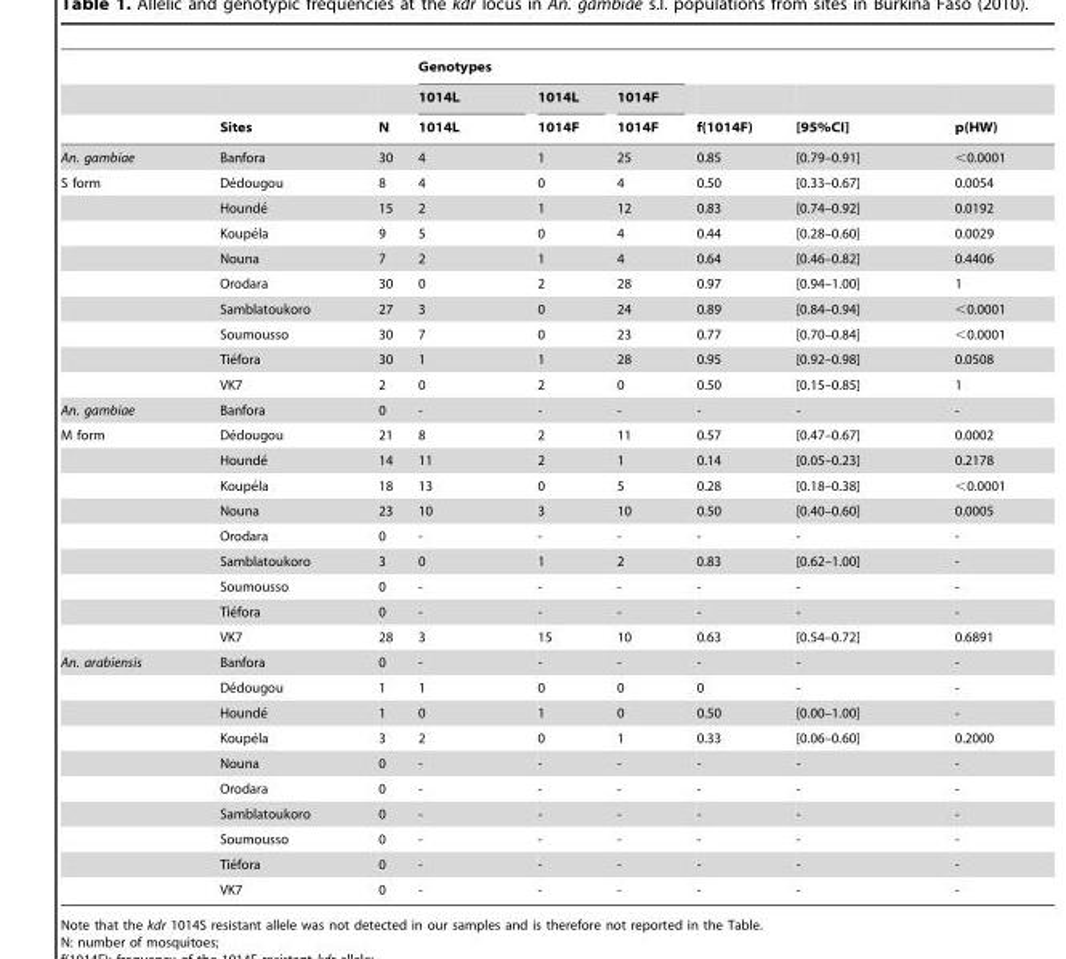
<table><thead><tr><td rowspan="3"></td><td rowspan="3">Sites</td><td rowspan="3">N</td><td colspan="3">Genotypes</td><td rowspan="3">f(1014F)</td><td rowspan="3">[95%CI]</td><td rowspan="3">p(HW)</td></tr><tr><td rowspan="2">1014L 1014L</td><td rowspan="2">1014L 1014F</td><td rowspan="2">1014F 1014F</td></tr><tr></tr></thead><tbody><tr><td>An. gambiae</td><td>Banfora</td><td>30</td><td>4</td><td>1</td><td>25</td><td>0.85</td><td>[0.79–0.91]</td><td>&lt;0.0001</td></tr><tr><td rowspan="9">S form</td><td>De´dougou</td><td>8</td><td>4</td><td>0</td><td>4</td><td>0.50</td><td>[0.33–0.67]</td><td>0.0054</td></tr><tr><td>Hounde´</td><td>15</td><td>2</td><td>1</td><td>12</td><td>0.83</td><td>[0.74–0.92]</td><td>0.0192</td></tr><tr><td>Koupe´la</td><td>9</td><td>5</td><td>0</td><td>4</td><td>0.44</td><td>[0.28–0.60]</td><td>0.0029</td></tr><tr><td>Nouna</td><td>7</td><td>2</td><td>1</td><td>4</td><td>0.64</td><td>[0.46–0.82]</td><td>0.4406</td></tr><tr><td>Orodara</td><td>30</td><td>0</td><td>2</td><td>28</td><td>0.97</td><td>[0.94–1.00]</td><td>1</td></tr><tr><td>Samblatoukoro</td><td>27</td><td>3</td><td>0</td><td>24</td><td>0.89</td><td>[0.84–0.94]</td><td>&lt;0.0001</td></tr><tr><td>Soumousso</td><td>30</td><td>7</td><td>0</td><td>23</td><td>0.77</td><td>[0.70–0.84]</td><td>&lt;0.0001</td></tr><tr><td>Tie´fora</td><td>30</td><td>1</td><td>1</td><td>28</td><td>0.95</td><td>[0.92–0.98]</td><td>0.0508</td></tr><tr><td>VK7</td><td>2</td><td>0</td><td>2</td><td>0</td><td>0.50</td><td>[0.15–0.85]</td><td>1</td></tr><tr><td>An. gambiae</td><td>Banfora</td><td>0</td><td>-</td><td>-</td><td>-</td><td>-</td><td>-</td><td>-</td></tr><tr><td rowspan="9">M form</td><td>De´dougou</td><td>21</td><td>8</td><td>2</td><td>11</td><td>0.57</td><td>[0.47–0.67]</td><td>0.0002</td></tr><tr><td>Hounde´</td><td>14</td><td>11</td><td>2</td><td>1</td><td>0.14</td><td>[0.05–0.23]</td><td>0.2178</td></tr><tr><td>Koupe´la</td><td>18</td><td>13</td><td>0</td><td>5</td><td>0.28</td><td>[0.18–0.38]</td><td>&lt;0.0001</td></tr><tr><td>Nouna</td><td>23</td><td>10</td><td>3</td><td>10</td><td>0.50</td><td>[0.40–0.60]</td><td>0.0005</td></tr><tr><td>Orodara</td><td>0</td><td>-</td><td>-</td><td>-</td><td>-</td><td>-</td><td>-</td></tr><tr><td>Samblatoukoro</td><td>3</td><td>0</td><td>1</td><td>2</td><td>0.83</td><td>[0.62–1.00]</td><td>-</td></tr><tr><td>Soumousso</td><td>0</td><td>-</td><td>-</td><td>-</td><td>-</td><td>-</td><td>-</td></tr><tr><td>Tie´fora</td><td>0</td><td>-</td><td>-</td><td>-</td><td>-</td><td>-</td><td>-</td></tr><tr><td>VK7</td><td>28</td><td>3</td><td>15</td><td>10</td><td>0.63</td><td>[0.54–0.72]</td><td>0.6891</td></tr><tr><td rowspan="10">An. arabiensis</td><td>Banfora</td><td>0</td><td>-</td><td>-</td><td>-</td><td>-</td><td>-</td><td>-</td></tr><tr><td>De´dougou</td><td>1</td><td>1</td><td>0</td><td>0</td><td>0</td><td>-</td><td>-</td></tr><tr><td>Hounde´</td><td>1</td><td>0</td><td>1</td><td>0</td><td>0.50</td><td>[0.00–1.00]</td><td>-</td></tr><tr><td>Koupe´la</td><td>3</td><td>2</td><td>0</td><td>1</td><td>0.33</td><td>[0.06–0.60]</td><td>0.2000</td></tr><tr><td>Nouna</td><td>0</td><td>-</td><td>-</td><td>-</td><td>-</td><td>-</td><td>-</td></tr><tr><td>Orodara</td><td>0</td><td>-</td><td>-</td><td>-</td><td>-</td><td>-</td><td>-</td></tr><tr><td>Samblatoukoro</td><td>0</td><td>-</td><td>-</td><td>-</td><td>-</td><td>-</td><td>-</td></tr><tr><td>Soumousso</td><td>0</td><td>-</td><td>-</td><td>-</td><td>-</td><td>-</td><td>-</td></tr><tr><td>Tie´fora</td><td>0</td><td>-</td><td>-</td><td>-</td><td>-</td><td>-</td><td>-</td></tr><tr><td>VK7</td><td>0</td><td>-</td><td>-</td><td>-</td><td>-</td><td>-</td><td>-</td></tr></tbody></table>